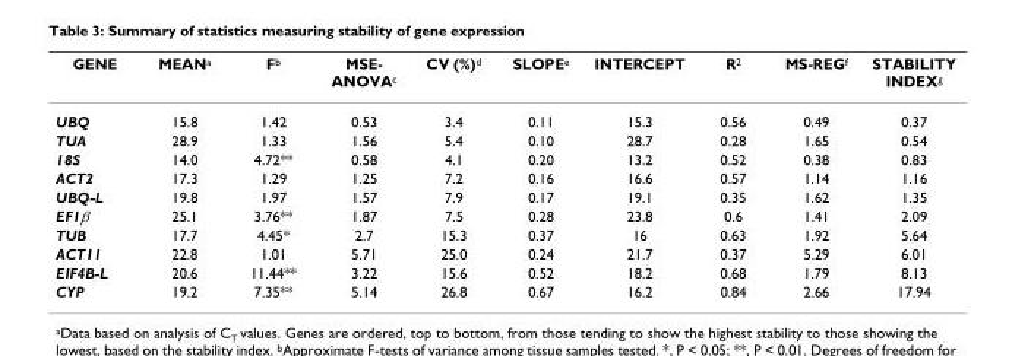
<table><thead><tr><td>GENE</td><td>MEANa</td><td>Fb</td><td>MSE- ANOVAc</td><td>CV (%)d</td><td>SLOPEe</td><td>INTERCEPT</td><td>R2</td><td>MS-REGf</td><td>STABILITY INDEXg</td></tr></thead><tbody><tr><td>UBQ</td><td>15.8</td><td>1.42</td><td>0.53</td><td>3.4</td><td>0.11</td><td>15.3</td><td>0.56</td><td>0.49</td><td>0.37</td></tr><tr><td>TUA</td><td>28.9</td><td>1.33</td><td>1.56</td><td>5.4</td><td>0.10</td><td>28.7</td><td>0.28</td><td>1.65</td><td>0.54</td></tr><tr><td>18S</td><td>14.0</td><td>4.72**</td><td>0.58</td><td>4.1</td><td>0.20</td><td>13.2</td><td>0.52</td><td>0.38</td><td>0.83</td></tr><tr><td>ACT2</td><td>17.3</td><td>1.29</td><td>1.25</td><td>7.2</td><td>0.16</td><td>16.6</td><td>0.57</td><td>1.14</td><td>1.16</td></tr><tr><td>UBQ-L</td><td>19.8</td><td>1.97</td><td>1.57</td><td>7.9</td><td>0.17</td><td>19.1</td><td>0.35</td><td>1.62</td><td>1.35</td></tr><tr><td>EF1β</td><td>25.1</td><td>3.76**</td><td>1.87</td><td>7.5</td><td>0.28</td><td>23.8</td><td>0.6</td><td>1.41</td><td>2.09</td></tr><tr><td>TUB</td><td>17.7</td><td>4.45*</td><td>2.7</td><td>15.3</td><td>0.37</td><td>16</td><td>0.63</td><td>1.92</td><td>5.64</td></tr><tr><td>ACT11</td><td>22.8</td><td>1.01</td><td>5.71</td><td>25.0</td><td>0.24</td><td>21.7</td><td>0.37</td><td>5.29</td><td>6.01</td></tr><tr><td>EIF4B-L</td><td>20.6</td><td>11.44**</td><td>3.22</td><td>15.6</td><td>0.52</td><td>18.2</td><td>0.68</td><td>1.79</td><td>8.13</td></tr><tr><td>CYP</td><td>19.2</td><td>7.35**</td><td>5.14</td><td>26.8</td><td>0.67</td><td>16.2</td><td>0.84</td><td>2.66</td><td>17.94</td></tr></tbody></table>